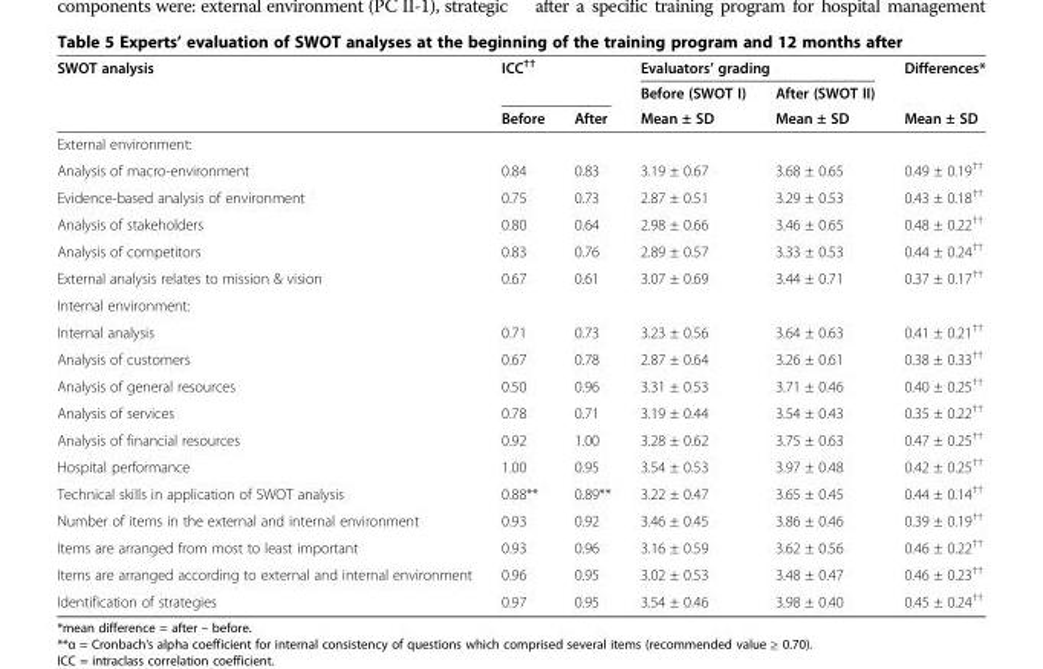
<table><thead><tr><td rowspan="3">SWOT analysis</td><td rowspan="2" colspan="2">ICC<sup>††</sup></td><td colspan="2">Evaluators’ grading</td><td rowspan="3">Differences* Mean ± SD</td></tr><tr><td rowspan="2">Before (SWOT I) Mean ± SD</td><td rowspan="2">After (SWOT II) Mean ± SD</td></tr><tr><td>Before</td><td>After</td></tr></thead><tbody><tr><td colspan="6">External environment:</td></tr><tr><td>Analysis of macro-environment</td><td>0.84</td><td>0.83</td><td>3.19 ± 0.67</td><td>3.68 ± 0.65</td><td>0.49 ± 0.19<sup>††</sup></td></tr><tr><td>Evidence-based analysis of environment</td><td>0.75</td><td>0.73</td><td>2.87 ± 0.51</td><td>3.29 ± 0.53</td><td>0.43 ± 0.18<sup>††</sup></td></tr><tr><td>Analysis of stakeholders</td><td>0.80</td><td>0.64</td><td>2.98 ± 0.66</td><td>3.46 ± 0.65</td><td>0.48 ± 0.22<sup>††</sup></td></tr><tr><td>Analysis of competitors</td><td>0.83</td><td>0.76</td><td>2.89 ± 0.57</td><td>3.33 ± 0.53</td><td>0.44 ± 0.24<sup>††</sup></td></tr><tr><td>External analysis relates to mission &amp; vision</td><td>0.67</td><td>0.61</td><td>3.07 ± 0.69</td><td>3.44 ± 0.71</td><td>0.37 ± 0.17<sup>††</sup></td></tr><tr><td colspan="6">Internal environment:</td></tr><tr><td>Internal analysis</td><td>0.71</td><td>0.73</td><td>3.23 ± 0.56</td><td>3.64 ± 0.63</td><td>0.41 ± 0.21<sup>††</sup></td></tr><tr><td>Analysis of customers</td><td>0.67</td><td>0.78</td><td>2.87 ± 0.64</td><td>3.26 ± 0.61</td><td>0.38 ± 0.33<sup>††</sup></td></tr><tr><td>Analysis of general resources</td><td>0.50</td><td>0.96</td><td>3.31 ± 0.53</td><td>3.71 ± 0.46</td><td>0.40 ± 0.25<sup>††</sup></td></tr><tr><td>Analysis of services</td><td>0.78</td><td>0.71</td><td>3.19 ± 0.44</td><td>3.54 ± 0.43</td><td>0.35 ± 0.22<sup>††</sup></td></tr><tr><td>Analysis of financial resources</td><td>0.92</td><td>1.00</td><td>3.28 ± 0.62</td><td>3.75 ± 0.63</td><td>0.47 ± 0.25<sup>††</sup></td></tr><tr><td>Hospital performance</td><td>1.00</td><td>0.95</td><td>3.54 ± 0.53</td><td>3.97 ± 0.48</td><td>0.42 ± 0.25<sup>††</sup></td></tr><tr><td>Technical skills in application of SWOT analysis</td><td>0.88**</td><td>0.89**</td><td>3.22 ± 0.47</td><td>3.65 ± 0.45</td><td>0.44 ± 0.14<sup>††</sup></td></tr><tr><td>Number of items in the external and internal environment</td><td>0.93</td><td>0.92</td><td>3.46 ± 0.45</td><td>3.86 ± 0.46</td><td>0.39 ± 0.19<sup>††</sup></td></tr><tr><td>Items are arranged from most to least important</td><td>0.93</td><td>0.96</td><td>3.16 ± 0.59</td><td>3.62 ± 0.56</td><td>0.46 ± 0.22<sup>††</sup></td></tr><tr><td>Items are arranged according to external and internal environment</td><td>0.96</td><td>0.95</td><td>3.02 ± 0.53</td><td>3.48 ± 0.47</td><td>0.46 ± 0.23<sup>††</sup></td></tr><tr><td>Identification of strategies</td><td>0.97</td><td>0.95</td><td>3.54 ± 0.46</td><td>3.98 ± 0.40</td><td>0.45 ± 0.24<sup>††</sup></td></tr></tbody></table>